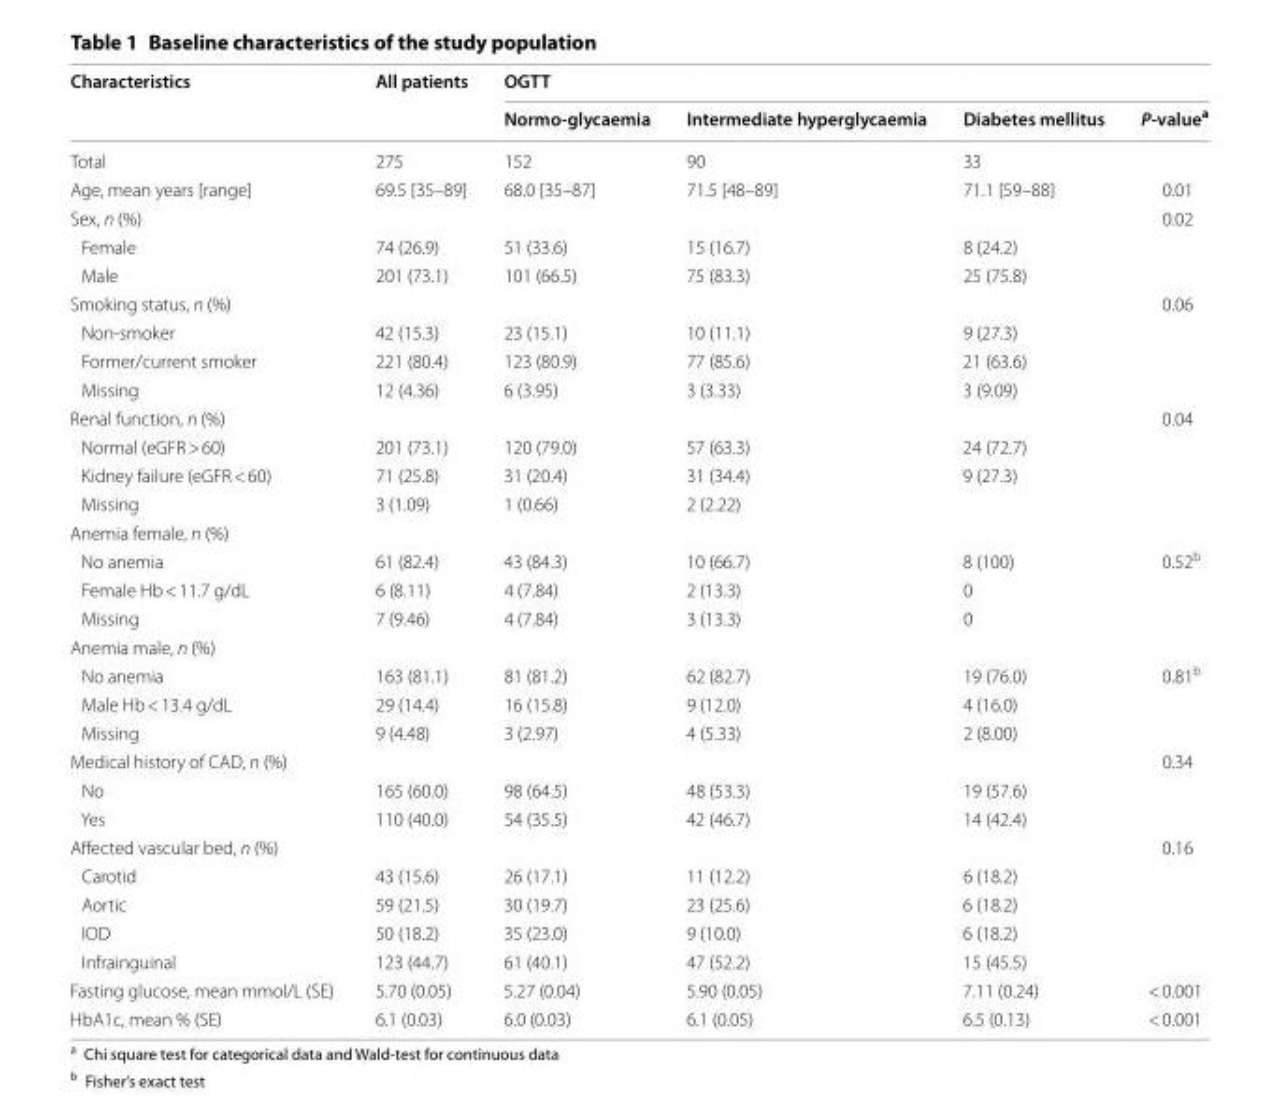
<table><thead><tr><td rowspan="2">Characteristics</td><td rowspan="2">All patients</td><td colspan="4">OGTT</td></tr><tr><td>Normo-glycaemia</td><td>Intermediate hyperglycaemia</td><td>Diabetes mellitus</td><td>P-value<sup>a</sup></td></tr></thead><tbody><tr><td>Total</td><td>275</td><td>152</td><td>90</td><td>33</td><td></td></tr><tr><td>Age, mean years [range]</td><td>69.5 [35–89]</td><td>68.0 [35–87]</td><td>71.5 [48–89]</td><td>71.1 [59–88]</td><td>0.01</td></tr><tr><td colspan="5">Sex, n (%)</td><td>0.02</td></tr><tr><td>Female</td><td>74 (26.9)</td><td>51 (33.6)</td><td>15 (16.7)</td><td>8 (24.2)</td><td></td></tr><tr><td>Male</td><td>201 (73.1)</td><td>101 (66.5)</td><td>75 (83.3)</td><td>25 (75.8)</td><td></td></tr><tr><td colspan="5">Smoking status, n (%)</td><td>0.06</td></tr><tr><td>Non-smoker</td><td>42 (15.3)</td><td>23 (15.1)</td><td>10 (11.1)</td><td>9 (27.3)</td><td></td></tr><tr><td>Former/current smoker</td><td>221 (80.4)</td><td>123 (80.9)</td><td>77 (85.6)</td><td>21 (63.6)</td><td></td></tr><tr><td>Missing</td><td>12 (4.36)</td><td>6 (3.95)</td><td>3 (3.33)</td><td>3 (9.09)</td><td></td></tr><tr><td colspan="5">Renal function, n (%)</td><td>0.04</td></tr><tr><td>Normal (eGFR &gt; 60)</td><td>201 (73.1)</td><td>120 (79.0)</td><td>57 (63.3)</td><td>24 (72.7)</td><td></td></tr><tr><td>Kidney failure (eGFR &lt; 60)</td><td>71 (25.8)</td><td>31 (20.4)</td><td>31 (34.4)</td><td>9 (27.3)</td><td></td></tr><tr><td>Missing</td><td>3 (1.09)</td><td>1 (0.66)</td><td>2 (2.22)</td><td></td><td></td></tr><tr><td colspan="6">Anemia female, n (%)</td></tr><tr><td>No anemia</td><td>61 (82.4)</td><td>43 (84.3)</td><td>10 (66.7)</td><td>8 (100)</td><td>0.52<sup>b</sup></td></tr><tr><td>Female Hb &lt; 11.7 g/dL</td><td>6 (8.11)</td><td>4 (7.84)</td><td>2 (13.3)</td><td>0</td><td></td></tr><tr><td>Missing</td><td>7 (9.46)</td><td>4 (7.84)</td><td>3 (13.3)</td><td>0</td><td></td></tr><tr><td colspan="6">Anemia male, n (%)</td></tr><tr><td>No anemia</td><td>163 (81.1)</td><td>81 (81.2)</td><td>62 (82.7)</td><td>19 (76.0)</td><td>0.81<sup>b</sup></td></tr><tr><td>Male Hb &lt; 13.4 g/dL</td><td>29 (14.4)</td><td>16 (15.8)</td><td>9 (12.0)</td><td>4 (16.0)</td><td></td></tr><tr><td>Missing</td><td>9 (4.48)</td><td>3 (2.97)</td><td>4 (5.33)</td><td>2 (8.00)</td><td></td></tr><tr><td colspan="5">Medical history of CAD, n (%)</td><td>0.34</td></tr><tr><td>No</td><td>165 (60.0)</td><td>98 (64.5)</td><td>48 (53.3)</td><td>19 (57.6)</td><td></td></tr><tr><td>Yes</td><td>110 (40.0)</td><td>54 (35.5)</td><td>42 (46.7)</td><td>14 (42.4)</td><td></td></tr><tr><td colspan="5">Affected vascular bed, n (%)</td><td>0.16</td></tr><tr><td>Carotid</td><td>43 (15.6)</td><td>26 (17.1)</td><td>11 (12.2)</td><td>6 (18.2)</td><td></td></tr><tr><td>Aortic</td><td>59 (21.5)</td><td>30 (19.7)</td><td>23 (25.6)</td><td>6 (18.2)</td><td></td></tr><tr><td>IOD</td><td>50 (18.2)</td><td>35 (23.0)</td><td>9 (10.0)</td><td>6 (18.2)</td><td></td></tr><tr><td>Infrainguinal</td><td>123 (44.7)</td><td>61 (40.1)</td><td>47 (52.2)</td><td>15 (45.5)</td><td></td></tr><tr><td>Fasting glucose, mean mmol/L (SE)</td><td>5.70 (0.05)</td><td>5.27 (0.04)</td><td>5.90 (0.05)</td><td>7.11 (0.24)</td><td>&lt; 0.001</td></tr><tr><td>HbA1c, mean % (SE)</td><td>6.1 (0.03)</td><td>6.0 (0.03)</td><td>6.1 (0.05)</td><td>6.5 (0.13)</td><td>&lt; 0.001</td></tr></tbody></table>